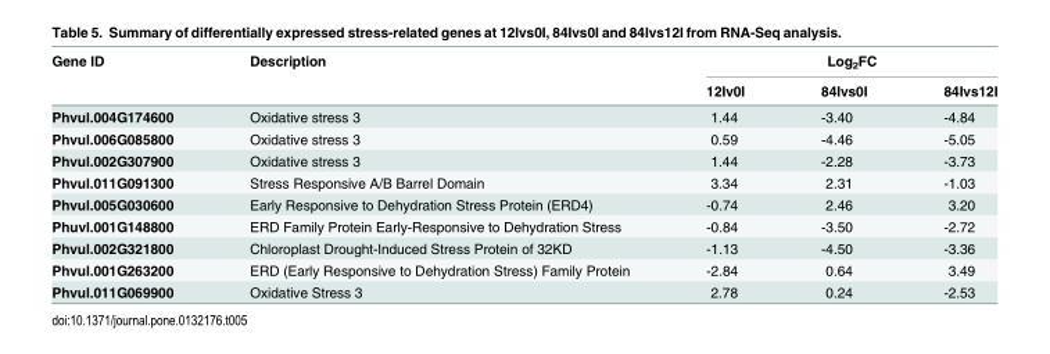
<table><thead><tr><td rowspan="2">Gene ID</td><td rowspan="2">Description</td><td colspan="3">Log<sub>2</sub>FC</td></tr><tr><td>12Iv0I</td><td>84Ivs0I</td><td>84Ivs12I</td></tr></thead><tbody><tr><td>Phvul.004G174600</td><td>Oxidative stress 3</td><td>1.44</td><td>-3.40</td><td>-4.84</td></tr><tr><td>Phvul.006G085800</td><td>Oxidative stress 3</td><td>0.59</td><td>-4.46</td><td>-5.05</td></tr><tr><td>Phvul.002G307900</td><td>Oxidative stress 3</td><td>1.44</td><td>-2.28</td><td>-3.73</td></tr><tr><td>Phvul.011G091300</td><td>Stress Responsive A/B Barrel Domain</td><td>3.34</td><td>2.31</td><td>-1.03</td></tr><tr><td>Phvul.005G030600</td><td>Early Responsive to Dehydration Stress Protein (ERD4)</td><td>-0.74</td><td>2.46</td><td>3.20</td></tr><tr><td>Phuvl.001G148800</td><td>ERD Family Protein Early-Responsive to Dehydration Stress</td><td>-0.84</td><td>-3.50</td><td>-2.72</td></tr><tr><td>Phvul.002G321800</td><td>Chloroplast Drought-Induced Stress Protein of 32KD</td><td>-1.13</td><td>-4.50</td><td>-3.36</td></tr><tr><td>Phvul.001G263200</td><td>ERD (Early Responsive to Dehydration Stress) Family Protein</td><td>-2.84</td><td>0.64</td><td>3.49</td></tr><tr><td>Phvul.011G069900</td><td>Oxidative Stress 3</td><td>2.78</td><td>0.24</td><td>-2.53</td></tr></tbody></table>